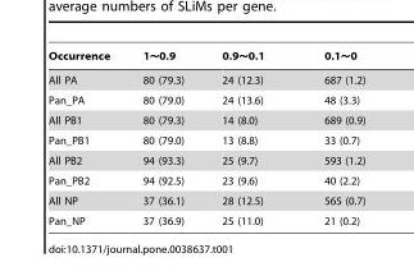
<table><thead><tr><td>Occurrence</td><td>1∼0.9</td><td>0.9∼0.1</td><td>0.1∼0</td></tr></thead><tbody><tr><td>All PA</td><td>80 (79.3)</td><td>24 (12.3)</td><td>687 (1.2)</td></tr><tr><td>Pan_PA</td><td>80 (79.0)</td><td>24 (13.6)</td><td>48 (3.3)</td></tr><tr><td>All PB1</td><td>80 (79.3)</td><td>14 (8.0)</td><td>689 (0.9)</td></tr><tr><td>Pan_PB1</td><td>80 (79.0)</td><td>13 (8.8)</td><td>33 (0.7)</td></tr><tr><td>All PB2</td><td>94 (93.3)</td><td>25 (9.7)</td><td>593 (1.2)</td></tr><tr><td>Pan_PB2</td><td>94 (92.5)</td><td>23 (9.6)</td><td>40 (2.2)</td></tr><tr><td>All NP</td><td>37 (36.1)</td><td>28 (12.5)</td><td>565 (0.7)</td></tr><tr><td>Pan_NP</td><td>37 (36.9)</td><td>25 (11.0)</td><td>21 (0.2)</td></tr></tbody></table>